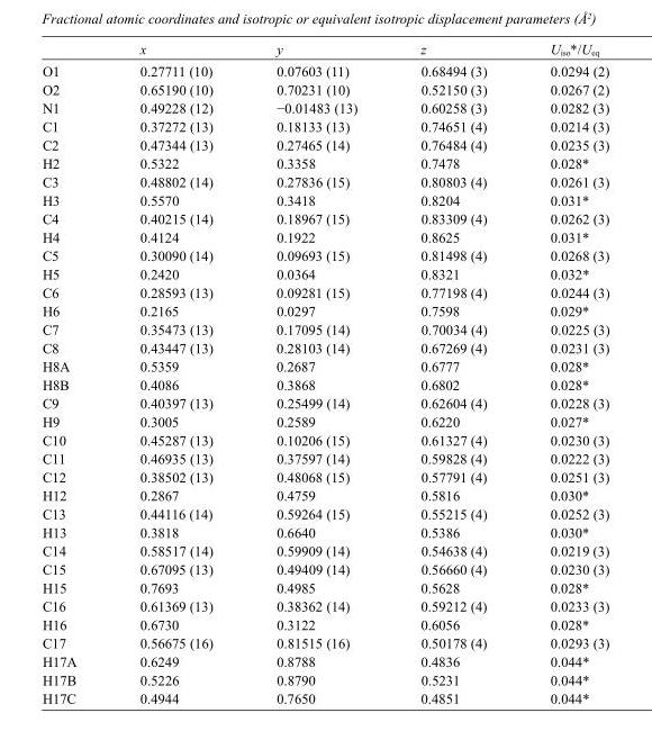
<table><thead><tr><td></td><td>x</td><td>y</td><td>z</td><td>U<sub>iso</sub>*/U<sub>eq</sub></td></tr></thead><tbody><tr><td>O1</td><td>0.27711 (10)</td><td>0.07603 (11)</td><td>0.68494 (3)</td><td>0.0294 (2)</td></tr><tr><td>O2</td><td>0.65190 (10)</td><td>0.70231 (10)</td><td>0.52150 (3)</td><td>0.0267 (2)</td></tr><tr><td>N1</td><td>0.49228 (12)</td><td>−0.01483 (13)</td><td>0.60258 (3)</td><td>0.0282 (3)</td></tr><tr><td>C1</td><td>0.37272 (13)</td><td>0.18133 (13)</td><td>0.74651 (4)</td><td>0.0214 (3)</td></tr><tr><td>C2</td><td>0.47344 (13)</td><td>0.27465 (14)</td><td>0.76484 (4)</td><td>0.0235 (3)</td></tr><tr><td>H2</td><td>0.5322</td><td>0.3358</td><td>0.7478</td><td>0.028*</td></tr><tr><td>C3</td><td>0.48802 (14)</td><td>0.27836 (15)</td><td>0.80803 (4)</td><td>0.0261 (3)</td></tr><tr><td>H3</td><td>0.5570</td><td>0.3418</td><td>0.8204</td><td>0.031*</td></tr><tr><td>C4</td><td>0.40215 (14)</td><td>0.18967 (15)</td><td>0.83309 (4)</td><td>0.0262 (3)</td></tr><tr><td>H4</td><td>0.4124</td><td>0.1922</td><td>0.8625</td><td>0.031*</td></tr><tr><td>C5</td><td>0.30090 (14)</td><td>0.09693 (15)</td><td>0.81498 (4)</td><td>0.0268 (3)</td></tr><tr><td>H5</td><td>0.2420</td><td>0.0364</td><td>0.8321</td><td>0.032*</td></tr><tr><td>C6</td><td>0.28593 (13)</td><td>0.09281 (15)</td><td>0.77198 (4)</td><td>0.0244 (3)</td></tr><tr><td>H6</td><td>0.2165</td><td>0.0297</td><td>0.7598</td><td>0.029*</td></tr><tr><td>C7</td><td>0.35473 (13)</td><td>0.17095 (14)</td><td>0.70034 (4)</td><td>0.0225 (3)</td></tr><tr><td>C8</td><td>0.43447 (13)</td><td>0.28103 (14)</td><td>0.67269 (4)</td><td>0.0231 (3)</td></tr><tr><td>H8A</td><td>0.5359</td><td>0.2687</td><td>0.6777</td><td>0.028*</td></tr><tr><td>H8B</td><td>0.4086</td><td>0.3868</td><td>0.6802</td><td>0.028*</td></tr><tr><td>C9</td><td>0.40397 (13)</td><td>0.25499 (14)</td><td>0.62604 (4)</td><td>0.0228 (3)</td></tr><tr><td>H9</td><td>0.3005</td><td>0.2589</td><td>0.6220</td><td>0.027*</td></tr><tr><td>C10</td><td>0.45287 (13)</td><td>0.10206 (15)</td><td>0.61327 (4)</td><td>0.0230 (3)</td></tr><tr><td>C11</td><td>0.46935 (13)</td><td>0.37597 (14)</td><td>0.59828 (4)</td><td>0.0222 (3)</td></tr><tr><td>C12</td><td>0.38502 (13)</td><td>0.48068 (15)</td><td>0.57791 (4)</td><td>0.0251 (3)</td></tr><tr><td>H12</td><td>0.2867</td><td>0.4759</td><td>0.5816</td><td>0.030*</td></tr><tr><td>C13</td><td>0.44116 (14)</td><td>0.59264 (15)</td><td>0.55215 (4)</td><td>0.0252 (3)</td></tr><tr><td>H13</td><td>0.3818</td><td>0.6640</td><td>0.5386</td><td>0.030*</td></tr><tr><td>C14</td><td>0.58517 (14)</td><td>0.59909 (14)</td><td>0.54638 (4)</td><td>0.0219 (3)</td></tr><tr><td>C15</td><td>0.67095 (13)</td><td>0.49409 (14)</td><td>0.56660 (4)</td><td>0.0230 (3)</td></tr><tr><td>H15</td><td>0.7693</td><td>0.4985</td><td>0.5628</td><td>0.028*</td></tr><tr><td>C16</td><td>0.61369 (13)</td><td>0.38362 (14)</td><td>0.59212 (4)</td><td>0.0233 (3)</td></tr><tr><td>H16</td><td>0.6730</td><td>0.3122</td><td>0.6056</td><td>0.028*</td></tr><tr><td>C17</td><td>0.56675 (16)</td><td>0.81515 (16)</td><td>0.50178 (4)</td><td>0.0293 (3)</td></tr><tr><td>H17A</td><td>0.6249</td><td>0.8788</td><td>0.4836</td><td>0.044*</td></tr><tr><td>H17B</td><td>0.5226</td><td>0.8790</td><td>0.5231</td><td>0.044*</td></tr><tr><td>H17C</td><td>0.4944</td><td>0.7650</td><td>0.4851</td><td>0.044*</td></tr></tbody></table>